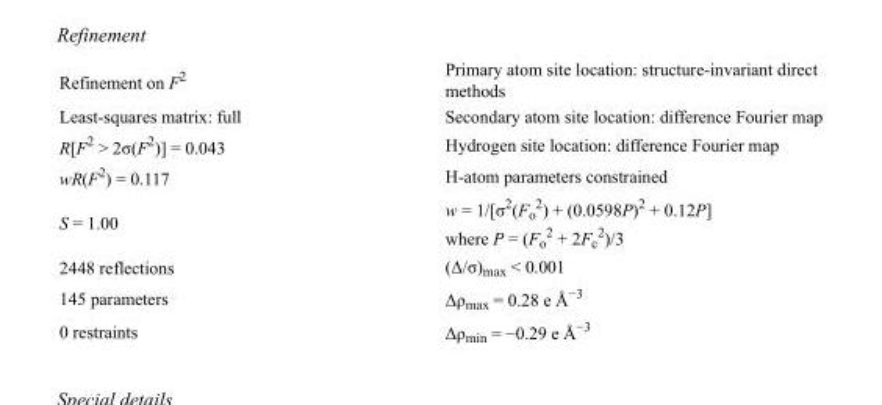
<table><tbody><tr><td>Refinement on F<sup>2</sup></td><td>Primary atom site location: structure-invariant direct methods</td></tr><tr><td>Least-squares matrix: full</td><td>Secondary atom site location: difference Fourier map</td></tr><tr><td>R[F<sup>2</sup> &gt; 2σ(F<sup>2</sup>)] = 0.043</td><td>Hydrogen site location: difference Fourier map</td></tr><tr><td>wR(F<sup>2</sup>) = 0.117</td><td>H-atom parameters constrained</td></tr><tr><td>S = 1.00</td><td>w = 1/[σ<sup>2</sup>(F<sub>o</sub> <sup>2</sup>) + (0.0598P)<sup>2</sup> + 0.12P] where P = (F<sub>o</sub> <sup>2</sup> + 2F<sub>c</sub> <sup>2</sup>)/3</td></tr><tr><td>2448 reflections</td><td>(Δ/σ)<sub>max</sub> &lt; 0.001</td></tr><tr><td>145 parameters</td><td>Δρ<sub>max</sub> = 0.28 e Å<sup>−3</sup></td></tr><tr><td>0 restraints</td><td>Δρ<sub>min</sub> = −0.29 e Å<sup>−3</sup></td></tr></tbody></table>